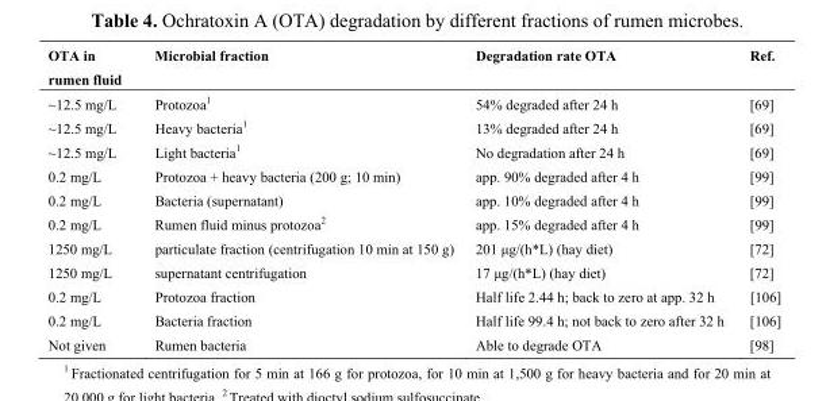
<table><thead><tr><td>OTA in rumen fluid</td><td>Microbial fraction</td><td>Degradation rate OTA</td><td>Ref.</td></tr></thead><tbody><tr><td>~12.5 mg/L</td><td>Protozoa<sup>1</sup></td><td>54% degraded after 24 h</td><td>[69]</td></tr><tr><td>~12.5 mg/L</td><td>Heavy bacteria<sup>1</sup></td><td>13% degraded after 24 h</td><td>[69]</td></tr><tr><td>~12.5 mg/L</td><td>Light bacteria<sup>1</sup></td><td>No degradation after 24 h</td><td>[69]</td></tr><tr><td>0.2 mg/L</td><td>Protozoa + heavy bacteria (200 g; 10 min)</td><td>app. 90% degraded after 4 h</td><td>[99]</td></tr><tr><td>0.2 mg/L</td><td>Bacteria (supernatant)</td><td>app. 10% degraded after 4 h</td><td>[99]</td></tr><tr><td>0.2 mg/L</td><td>Rumen fluid minus protozoa<sup>2</sup></td><td>app. 15% degraded after 4 h</td><td>[99]</td></tr><tr><td>1250 mg/L</td><td>particulate fraction (centrifugation 10 min at 150 g)</td><td>201 μg/(h*L) (hay diet)</td><td>[72]</td></tr><tr><td>1250 mg/L</td><td>supernatant centrifugation</td><td>17 μg/(h*L) (hay diet)</td><td>[72]</td></tr><tr><td>0.2 mg/L</td><td>Protozoa fraction</td><td>Half life 2.44 h; back to zero at app. 32 h</td><td>[106]</td></tr><tr><td>0.2 mg/L</td><td>Bacteria fraction</td><td>Half life 99.4 h; not back to zero after 32 h</td><td>[106]</td></tr><tr><td>Not given</td><td>Rumen bacteria</td><td>Able to degrade OTA</td><td>[98]</td></tr></tbody></table>